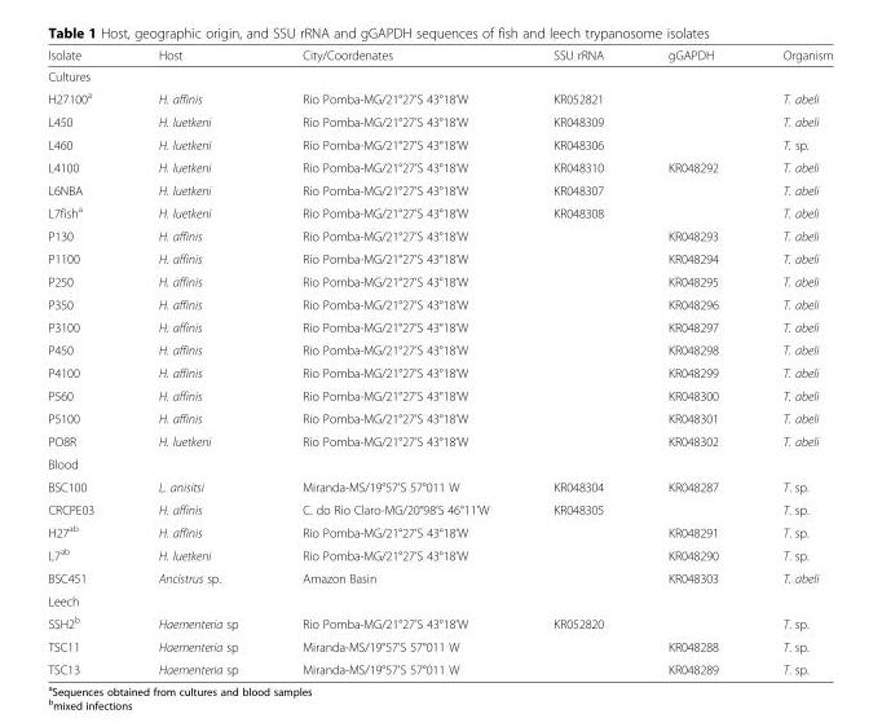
<table><thead><tr><td>Isolate</td><td>Host</td><td>City/Coordenates</td><td>SSU rRNA</td><td>gGAPDH</td><td>Organism</td></tr></thead><tbody><tr><td colspan="6">Cultures</td></tr><tr><td>H27100<sup>a</sup></td><td>H. affinis</td><td>Rio Pomba-MG/21°27’S 43°18’W</td><td>KR052821</td><td></td><td>T. abeli</td></tr><tr><td>L450</td><td>H. luetkeni</td><td>Rio Pomba-MG/21°27’S 43°18’W</td><td>KR048309</td><td></td><td>T. abeli</td></tr><tr><td>L460</td><td>H. luetkeni</td><td>Rio Pomba-MG/21°27’S 43°18’W</td><td>KR048306</td><td></td><td>T. sp.</td></tr><tr><td>L4100</td><td>H. luetkeni</td><td>Rio Pomba-MG/21°27’S 43°18’W</td><td>KR048310</td><td>KR048292</td><td>T. abeli</td></tr><tr><td>L6NBA</td><td>H. luetkeni</td><td>Rio Pomba-MG/21°27’S 43°18’W</td><td>KR048307</td><td></td><td>T. abeli</td></tr><tr><td>L7fish<sup>a</sup></td><td>H. luetkeni</td><td>Rio Pomba-MG/21°27’S 43°18’W</td><td>KR048308</td><td></td><td>T. abeli</td></tr><tr><td>P130</td><td>H. affinis</td><td>Rio Pomba-MG/21°27’S 43°18’W</td><td></td><td>KR048293</td><td>T. abeli</td></tr><tr><td>P1100</td><td>H. affinis</td><td>Rio Pomba-MG/21°27’S 43°18’W</td><td></td><td>KR048294</td><td>T. abeli</td></tr><tr><td>P250</td><td>H. affinis</td><td>Rio Pomba-MG/21°27’S 43°18’W</td><td></td><td>KR048295</td><td>T. abeli</td></tr><tr><td>P350</td><td>H. affinis</td><td>Rio Pomba-MG/21°27’S 43°18’W</td><td></td><td>KR048296</td><td>T. abeli</td></tr><tr><td>P3100</td><td>H. affinis</td><td>Rio Pomba-MG/21°27’S 43°18’W</td><td></td><td>KR048297</td><td>T. abeli</td></tr><tr><td>P450</td><td>H. affinis</td><td>Rio Pomba-MG/21°27’S 43°18’W</td><td></td><td>KR048298</td><td>T. abeli</td></tr><tr><td>P4100</td><td>H. affinis</td><td>Rio Pomba-MG/21°27’S 43°18’W</td><td></td><td>KR048299</td><td>T. abeli</td></tr><tr><td>P560</td><td>H. affinis</td><td>Rio Pomba-MG/21°27’S 43°18’W</td><td></td><td>KR048300</td><td>T. abeli</td></tr><tr><td>P5100</td><td>H. affinis</td><td>Rio Pomba-MG/21°27’S 43°18’W</td><td></td><td>KR048301</td><td>T. abeli</td></tr><tr><td>PO8R</td><td>H. luetkeni</td><td>Rio Pomba-MG/21°27’S 43°18’W</td><td></td><td>KR048302</td><td>T. abeli</td></tr><tr><td colspan="6">Blood</td></tr><tr><td>BSC100</td><td>L. anisitsi</td><td>Miranda-MS/19°57’S 57°011 W</td><td>KR048304</td><td>KR048287</td><td>T. sp.</td></tr><tr><td>CRCPE03</td><td>H. affinis</td><td>C. do Rio Claro-MG/20°98’S 46°11’W</td><td>KR048305</td><td></td><td>T. sp.</td></tr><tr><td>H27<sup>ab</sup></td><td>H. affinis</td><td>Rio Pomba-MG/21°27’S 43°18’W</td><td></td><td>KR048291</td><td>T. sp.</td></tr><tr><td>L7<sup>ab</sup></td><td>H. luetkeni</td><td>Rio Pomba-MG/21°27’S 43°18’W</td><td></td><td>KR048290</td><td>T. sp.</td></tr><tr><td>BSC451</td><td>Ancistrus sp.</td><td>Amazon Basin</td><td></td><td>KR048303</td><td>T. abeli</td></tr><tr><td colspan="6">Leech</td></tr><tr><td>SSH2<sup>b</sup></td><td>Haementeria sp</td><td>Rio Pomba-MG/21°27’S 43°18’W</td><td>KR052820</td><td></td><td>T. sp.</td></tr><tr><td>TSC11</td><td>Haementeria sp</td><td>Miranda-MS/19°57’S 57°011 W</td><td></td><td>KR048288</td><td>T. sp.</td></tr><tr><td>TSC13</td><td>Haementeria sp</td><td>Miranda-MS/19°57’S 57°011 W</td><td></td><td>KR048289</td><td>T. sp.</td></tr></tbody></table>